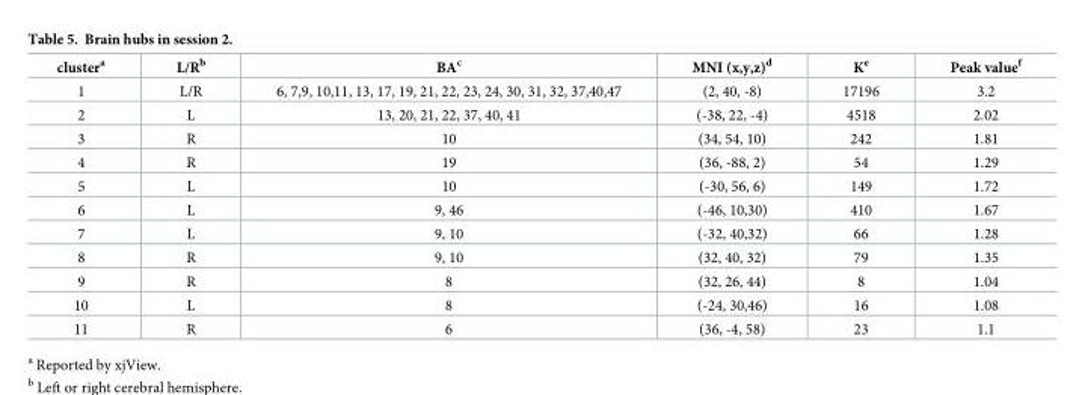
<table><thead><tr><td>cluster<sup>a</sup></td><td>L/R<sup>b</sup></td><td>BA<sup>c</sup></td><td>MNI (x,y,z)<sup>d</sup></td><td>K<sup>e</sup></td><td>Peak value<sup>f</sup></td></tr></thead><tbody><tr><td>1</td><td>L/R</td><td>6, 7,9, 10,11, 13, 17, 19, 21, 22, 23, 24, 30, 31, 32, 37,40,47</td><td>(2, 40, -8)</td><td>17196</td><td>3.2</td></tr><tr><td>2</td><td>L</td><td>13, 20, 21, 22, 37, 40, 41</td><td>(-38, 22, -4)</td><td>4518</td><td>2.02</td></tr><tr><td>3</td><td>R</td><td>10</td><td>(34, 54, 10)</td><td>242</td><td>1.81</td></tr><tr><td>4</td><td>R</td><td>19</td><td>(36, -88, 2)</td><td>54</td><td>1.29</td></tr><tr><td>5</td><td>L</td><td>10</td><td>(-30, 56, 6)</td><td>149</td><td>1.72</td></tr><tr><td>6</td><td>L</td><td>9, 46</td><td>(-46, 10,30)</td><td>410</td><td>1.67</td></tr><tr><td>7</td><td>L</td><td>9, 10</td><td>(-32, 40,32)</td><td>66</td><td>1.28</td></tr><tr><td>8</td><td>R</td><td>9, 10</td><td>(32, 40, 32)</td><td>79</td><td>1.35</td></tr><tr><td>9</td><td>R</td><td>8</td><td>(32, 26, 44)</td><td>8</td><td>1.04</td></tr><tr><td>10</td><td>L</td><td>8</td><td>(-24, 30,46)</td><td>16</td><td>1.08</td></tr><tr><td>11</td><td>R</td><td>6</td><td>(36, -4, 58)</td><td>23</td><td>1.1</td></tr></tbody></table>